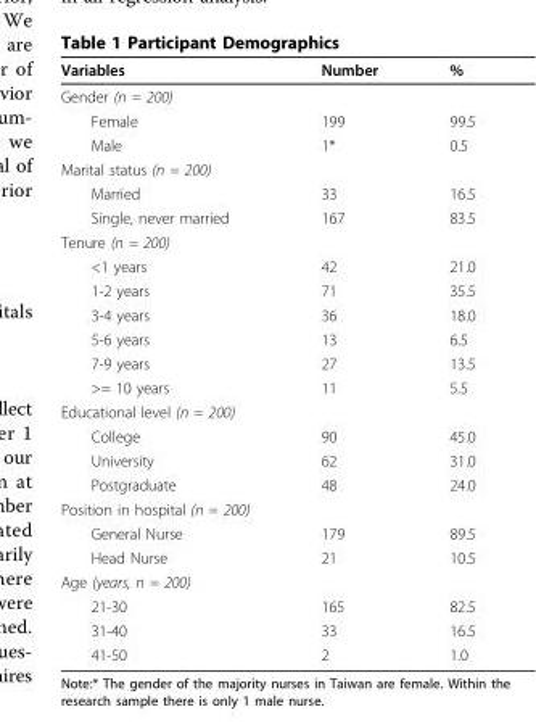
<table><thead><tr><td>Variables</td><td>Number</td><td>%</td></tr></thead><tbody><tr><td colspan="3">Gender (n = 200)</td></tr><tr><td>Female</td><td>199</td><td>99.5</td></tr><tr><td>Male</td><td>1*</td><td>0.5</td></tr><tr><td colspan="3">Marital status (n = 200)</td></tr><tr><td>Married</td><td>33</td><td>16.5</td></tr><tr><td>Single, never married</td><td>167</td><td>83.5</td></tr><tr><td colspan="3">Tenure (n = 200)</td></tr><tr><td>&lt;1 years</td><td>42</td><td>21.0</td></tr><tr><td>1-2 years</td><td>71</td><td>35.5</td></tr><tr><td>3-4 years</td><td>36</td><td>18.0</td></tr><tr><td>5-6 years</td><td>13</td><td>6.5</td></tr><tr><td>7-9 years</td><td>27</td><td>13.5</td></tr><tr><td>&gt;= 10 years</td><td>11</td><td>5.5</td></tr><tr><td colspan="3">Educational level (n = 200)</td></tr><tr><td>College</td><td>90</td><td>45.0</td></tr><tr><td>University</td><td>62</td><td>31.0</td></tr><tr><td>Postgraduate</td><td>48</td><td>24.0</td></tr><tr><td colspan="3">Position in hospital (n = 200)</td></tr><tr><td>General Nurse</td><td>179</td><td>89.5</td></tr><tr><td>Head Nurse</td><td>21</td><td>10.5</td></tr><tr><td colspan="3">Age (years, n = 200)</td></tr><tr><td>21-30</td><td>165</td><td>82.5</td></tr><tr><td>31-40</td><td>33</td><td>16.5</td></tr><tr><td>41-50</td><td>2</td><td>1.0</td></tr></tbody></table>